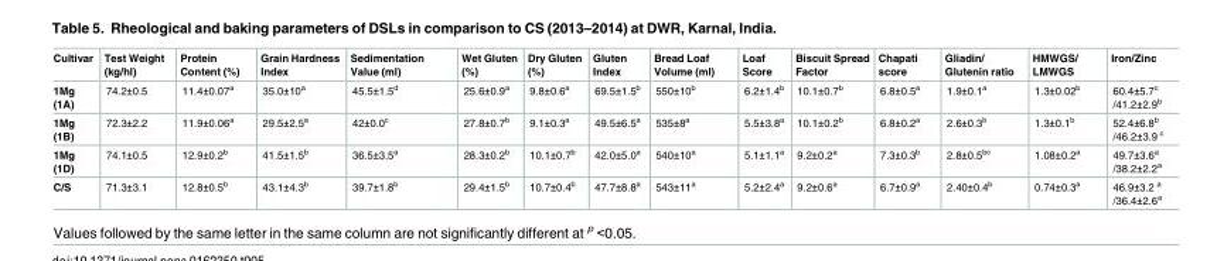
<table><thead><tr><td>Cultivar</td><td>Test Weight (kg/hl)</td><td>Protein Content (%)</td><td>Grain Hardness Index</td><td>Sedimentation Value (ml)</td><td>Wet Gluten (%)</td><td>Dry Gluten (%)</td><td>Gluten Index</td><td>Bread Loaf Volume (ml)</td><td>Loaf Score</td><td>Biscuit Spread Factor</td><td>Chapati score</td><td>Gliadin/ Glutenin ratio</td><td>HMWGS/ LMWGS</td><td>Iron/Zinc</td></tr></thead><tbody><tr><td>1Mg (1A)</td><td>74.2±0.5</td><td>11.4±0.07<sup>a</sup></td><td>35.0±10<sup>a</sup></td><td>45.5±1.5<sup>d</sup></td><td>25.6±0.9<sup>a</sup></td><td>9.8±0.6<sup>a</sup></td><td>69.5±1.5<sup>b</sup></td><td>550±10<sup>b</sup></td><td>6.2±1.4<sup>b</sup></td><td>10.1±0.7<sup>b</sup></td><td>6.8±0.5<sup>a</sup></td><td>1.9±0.1<sup>a</sup></td><td>1.3±0.02<sup>b</sup></td><td>60.4±5.7<sup>c</sup> /41.2±2.9<sup>b</sup></td></tr><tr><td>1Mg (1B)</td><td>72.3±2.2</td><td>11.9±0.06<sup>a</sup></td><td>29.5±2.5<sup>a</sup></td><td>42±0.0<sup>c</sup></td><td>27.8±0.7<sup>b</sup></td><td>9.1±0.3<sup>a</sup></td><td>49.5±6.5<sup>a</sup></td><td>535±8<sup>a</sup></td><td>5.5±3.8<sup>a</sup></td><td>10.1±0.2<sup>b</sup></td><td>6.8±0.2<sup>a</sup></td><td>2.6±0.3<sup>b</sup></td><td>1.3±0.1<sup>b</sup></td><td>52.4±6.8<sup>b</sup> /46.2±3.9 <sup>c</sup></td></tr><tr><td>1Mg (1D)</td><td>74.1±0.5</td><td>12.9±0.2<sup>b</sup></td><td>41.5±1.5<sup>b</sup></td><td>36.5±3.5<sup>a</sup></td><td>28.3±0.2<sup>b</sup></td><td>10.1±0.7<sup>b</sup></td><td>42.0±5.0<sup>a</sup></td><td>540±10<sup>a</sup></td><td>5.1±1.1<sup>a</sup></td><td>9.2±0.2<sup>a</sup></td><td>7.3±0.3<sup>b</sup></td><td>2.8±0.5<sup>bc</sup></td><td>1.08±0.2<sup>a</sup></td><td>49.7±3.6<sup>a</sup> /38.2±2.2<sup>a</sup></td></tr><tr><td>C/S</td><td>71.3±3.1</td><td>12.8±0.5<sup>b</sup></td><td>43.1±4.3<sup>b</sup></td><td>39.7±1.8<sup>b</sup></td><td>29.4±1.5<sup>b</sup></td><td>10.7±0.4<sup>b</sup></td><td>47.7±8.8<sup>a</sup></td><td>543±11<sup>a</sup></td><td>5.2±2.4<sup>a</sup></td><td>9.2±0.6<sup>a</sup></td><td>6.7±0.9<sup>a</sup></td><td>2.40±0.4<sup>b</sup></td><td>0.74±0.3<sup>a</sup></td><td>46.9±3.2 <sup>a</sup> /36.4±2.6<sup>a</sup></td></tr></tbody></table>